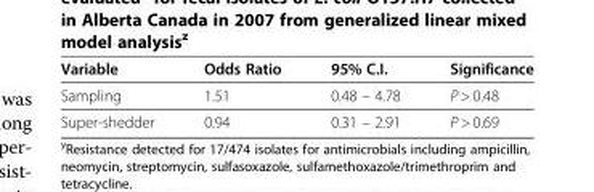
<table><thead><tr><td>Variable</td><td>Odds Ratio</td><td>95% C.I.</td><td>Significance</td></tr></thead><tbody><tr><td>Sampling</td><td>1.51</td><td>0.48 – 4.78</td><td>P &gt; 0.48</td></tr><tr><td>Super-shedder</td><td>0.94</td><td>0.31 – 2.91</td><td>P &gt; 0.69</td></tr></tbody></table>